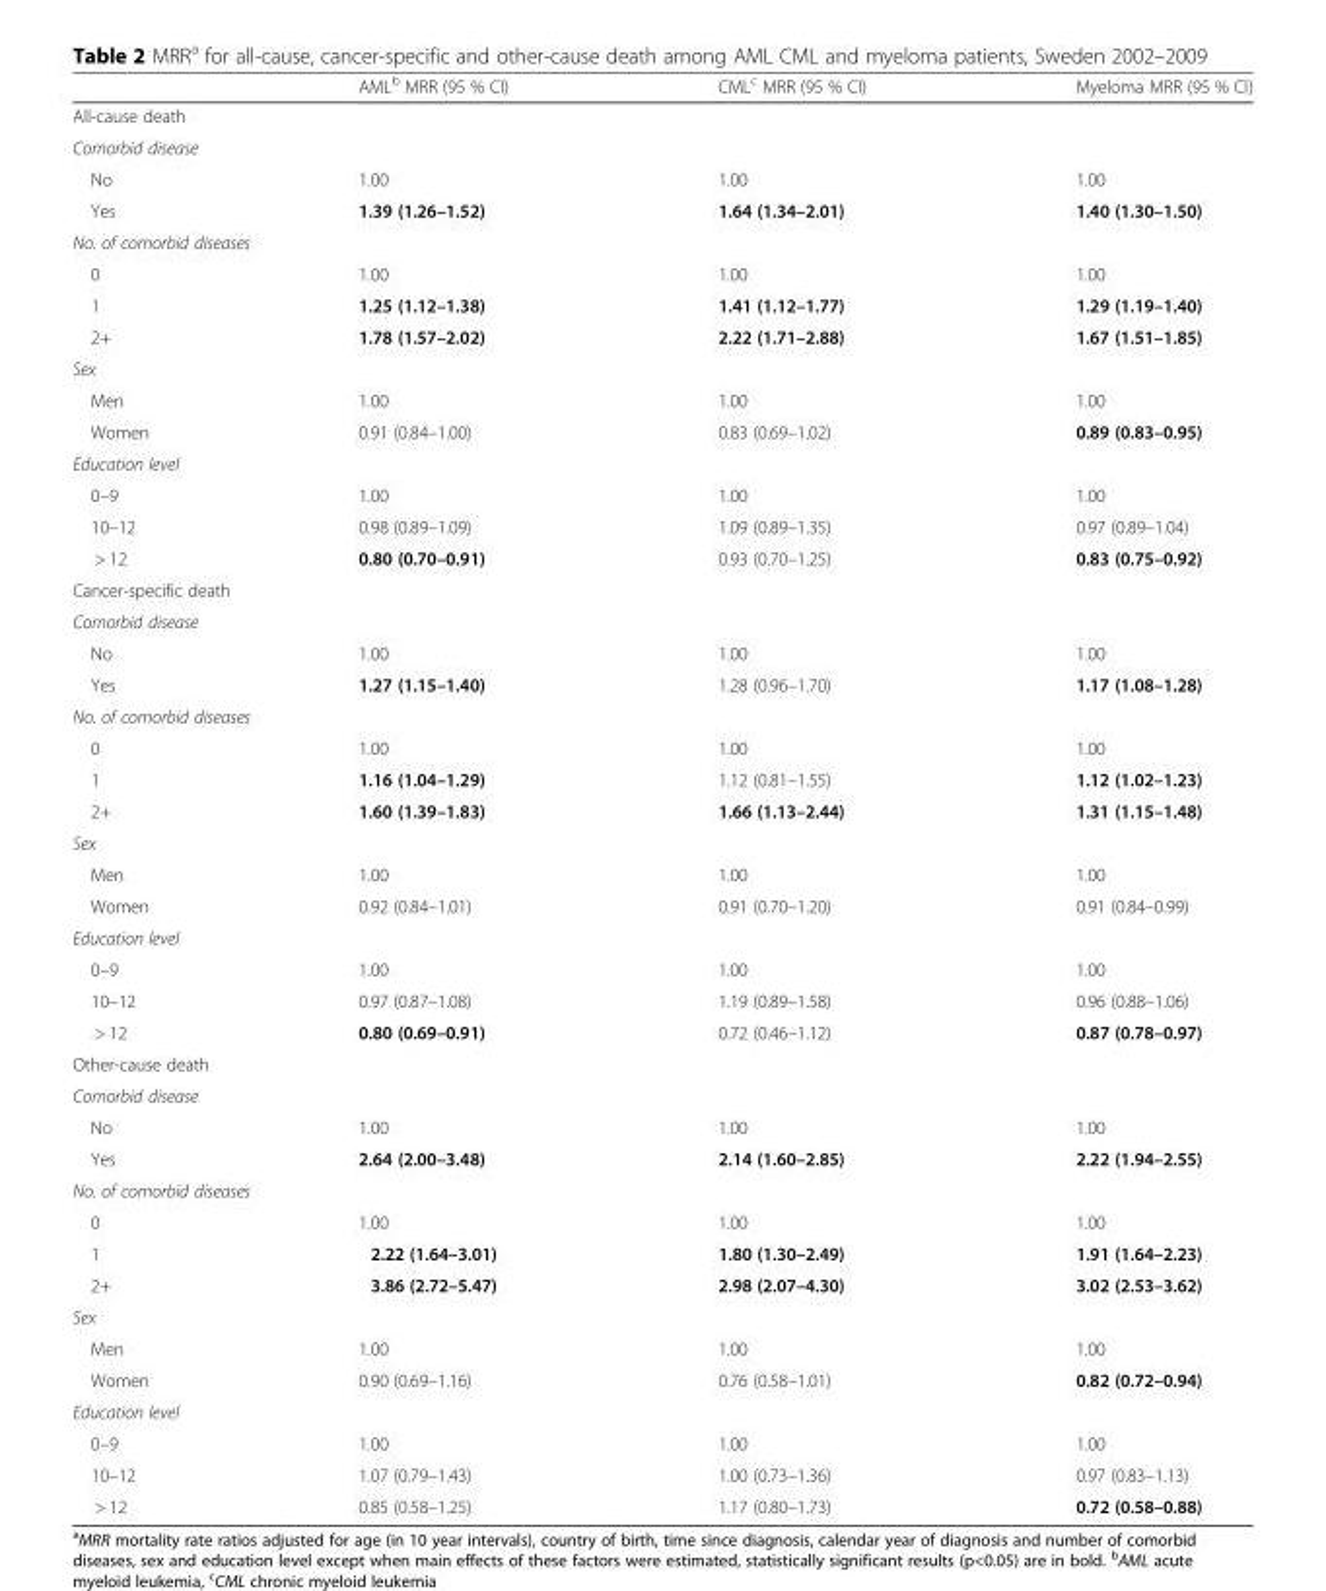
<table><thead><tr><td></td><td>AML<sup>b</sup> MRR (95 % CI)</td><td>CML<sup>c</sup> MRR (95 % CI)</td><td>Myeloma MRR (95 % CI)</td></tr></thead><tbody><tr><td colspan="4">All-cause death</td></tr><tr><td colspan="4">Comorbid disease</td></tr><tr><td>No</td><td>1.00</td><td>1.00</td><td>1.00</td></tr><tr><td>Yes</td><td>1.39 (1.26–1.52)</td><td>1.64 (1.34–2.01)</td><td>1.40 (1.30–1.50)</td></tr><tr><td colspan="4">No. of comorbid diseases</td></tr><tr><td>0</td><td>1.00</td><td>1.00</td><td>1.00</td></tr><tr><td>1</td><td>1.25 (1.12–1.38)</td><td>1.41 (1.12–1.77)</td><td>1.29 (1.19–1.40)</td></tr><tr><td>2+</td><td>1.78 (1.57–2.02)</td><td>2.22 (1.71–2.88)</td><td>1.67 (1.51–1.85)</td></tr><tr><td colspan="4">Sex</td></tr><tr><td>Men</td><td>1.00</td><td>1.00</td><td>1.00</td></tr><tr><td>Women</td><td>0.91 (0.84–1.00)</td><td>0.83 (0.69–1.02)</td><td>0.89 (0.83–0.95)</td></tr><tr><td colspan="4">Education level</td></tr><tr><td>0–9</td><td>1.00</td><td>1.00</td><td>1.00</td></tr><tr><td>10–12</td><td>0.98 (0.89–1.09)</td><td>1.09 (0.89–1.35)</td><td>0.97 (0.89–1.04)</td></tr><tr><td>&gt; 12</td><td>0.80 (0.70–0.91)</td><td>0.93 (0.70–1.25)</td><td>0.83 (0.75–0.92)</td></tr><tr><td colspan="4">Cancer-specific death</td></tr><tr><td colspan="4">Comorbid disease</td></tr><tr><td>No</td><td>1.00</td><td>1.00</td><td>1.00</td></tr><tr><td>Yes</td><td>1.27 (1.15–1.40)</td><td>1.28 (0.96–1.70)</td><td>1.17 (1.08–1.28)</td></tr><tr><td colspan="4">No. of comorbid diseases</td></tr><tr><td>0</td><td>1.00</td><td>1.00</td><td>1.00</td></tr><tr><td>1</td><td>1.16 (1.04–1.29)</td><td>1.12 (0.81–1.55)</td><td>1.12 (1.02–1.23)</td></tr><tr><td>2+</td><td>1.60 (1.39–1.83)</td><td>1.66 (1.13–2.44)</td><td>1.31 (1.15–1.48)</td></tr><tr><td colspan="4">Sex</td></tr><tr><td>Men</td><td>1.00</td><td>1.00</td><td>1.00</td></tr><tr><td>Women</td><td>0.92 (0.84–1.01)</td><td>0.91 (0.70–1.20)</td><td>0.91 (0.84–0.99)</td></tr><tr><td colspan="4">Education level</td></tr><tr><td>0–9</td><td>1.00</td><td>1.00</td><td>1.00</td></tr><tr><td>10–12</td><td>0.97 (0.87–1.08)</td><td>1.19 (0.89–1.58)</td><td>0.96 (0.88–1.06)</td></tr><tr><td>&gt; 12</td><td>0.80 (0.69–0.91)</td><td>0.72 (0.46–1.12)</td><td>0.87 (0.78–0.97)</td></tr><tr><td colspan="4">Other-cause death</td></tr><tr><td colspan="4">Comorbid disease</td></tr><tr><td>No</td><td>1.00</td><td>1.00</td><td>1.00</td></tr><tr><td>Yes</td><td>2.64 (2.00–3.48)</td><td>2.14 (1.60–2.85)</td><td>2.22 (1.94–2.55)</td></tr><tr><td colspan="4">No. of comorbid diseases</td></tr><tr><td>0</td><td>1.00</td><td>1.00</td><td>1.00</td></tr><tr><td>1</td><td>2.22 (1.64–3.01)</td><td>1.80 (1.30–2.49)</td><td>1.91 (1.64–2.23)</td></tr><tr><td>2+</td><td>3.86 (2.72–5.47)</td><td>2.98 (2.07–4.30)</td><td>3.02 (2.53–3.62)</td></tr><tr><td colspan="4">Sex</td></tr><tr><td>Men</td><td>1.00</td><td>1.00</td><td>1.00</td></tr><tr><td>Women</td><td>0.90 (0.69–1.16)</td><td>0.76 (0.58–1.01)</td><td>0.82 (0.72–0.94)</td></tr><tr><td colspan="4">Education level</td></tr><tr><td>0–9</td><td>1.00</td><td>1.00</td><td>1.00</td></tr><tr><td>10–12</td><td>1.07 (0.79–1.43)</td><td>1.00 (0.73–1.36)</td><td>0.97 (0.83–1.13)</td></tr><tr><td>&gt; 12</td><td>0.85 (0.58–1.25)</td><td>1.17 (0.80–1.73)</td><td>0.72 (0.58–0.88)</td></tr></tbody></table>